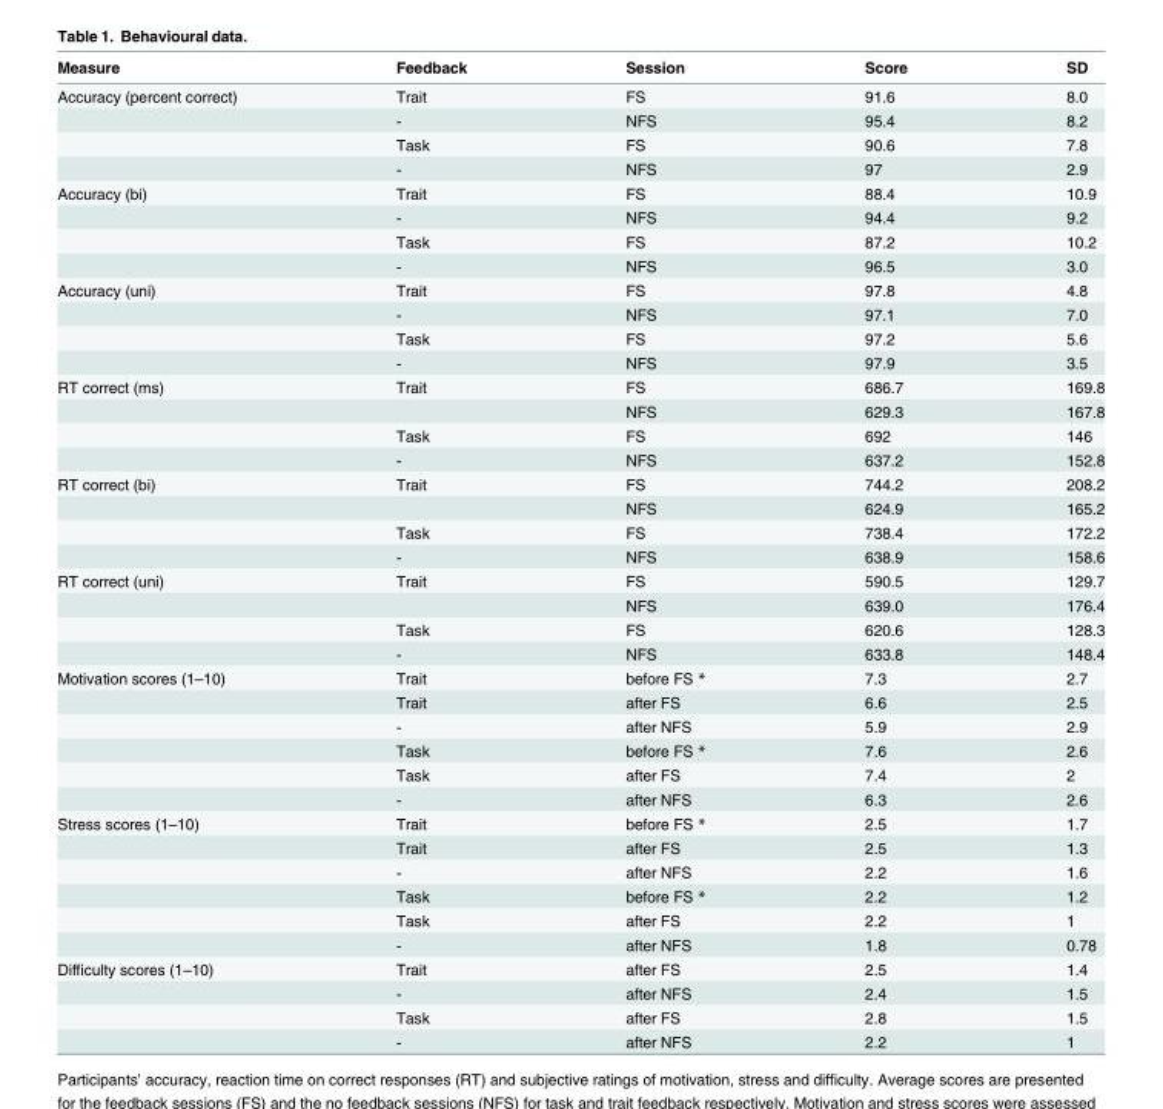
<table><thead><tr><td>Measure</td><td>Feedback</td><td>Session</td><td>Score</td><td>SD</td></tr></thead><tbody><tr><td rowspan="4">Accuracy (percent correct)</td><td>Trait</td><td>FS</td><td>91.6</td><td>8.0</td></tr><tr><td>-</td><td>NFS</td><td>95.4</td><td>8.2</td></tr><tr><td>Task</td><td>FS</td><td>90.6</td><td>7.8</td></tr><tr><td>-</td><td>NFS</td><td>97</td><td>2.9</td></tr><tr><td rowspan="4">Accuracy (bi)</td><td>Trait</td><td>FS</td><td>88.4</td><td>10.9</td></tr><tr><td>-</td><td>NFS</td><td>94.4</td><td>9.2</td></tr><tr><td>Task</td><td>FS</td><td>87.2</td><td>10.2</td></tr><tr><td>-</td><td>NFS</td><td>96.5</td><td>3.0</td></tr><tr><td rowspan="4">Accuracy (uni)</td><td>Trait</td><td>FS</td><td>97.8</td><td>4.8</td></tr><tr><td>-</td><td>NFS</td><td>97.1</td><td>7.0</td></tr><tr><td>Task</td><td>FS</td><td>97.2</td><td>5.6</td></tr><tr><td>-</td><td>NFS</td><td>97.9</td><td>3.5</td></tr><tr><td rowspan="4">RT correct (ms)</td><td>Trait</td><td>FS</td><td>686.7</td><td>169.8</td></tr><tr><td></td><td>NFS</td><td>629.3</td><td>167.8</td></tr><tr><td>Task</td><td>FS</td><td>692</td><td>146</td></tr><tr><td>-</td><td>NFS</td><td>637.2</td><td>152.8</td></tr><tr><td rowspan="4">RT correct (bi)</td><td>Trait</td><td>FS</td><td>744.2</td><td>208.2</td></tr><tr><td></td><td>NFS</td><td>624.9</td><td>165.2</td></tr><tr><td>Task</td><td>FS</td><td>738.4</td><td>172.2</td></tr><tr><td>-</td><td>NFS</td><td>638.9</td><td>158.6</td></tr><tr><td rowspan="4">RT correct (uni)</td><td>Trait</td><td>FS</td><td>590.5</td><td>129.7</td></tr><tr><td></td><td>NFS</td><td>639.0</td><td>176.4</td></tr><tr><td>Task</td><td>FS</td><td>620.6</td><td>128.3</td></tr><tr><td>-</td><td>NFS</td><td>633.8</td><td>148.4</td></tr><tr><td rowspan="6">Motivation scores (1–10)</td><td>Trait</td><td>before FS *</td><td>7.3</td><td>2.7</td></tr><tr><td>Trait</td><td>after FS</td><td>6.6</td><td>2.5</td></tr><tr><td>-</td><td>after NFS</td><td>5.9</td><td>2.9</td></tr><tr><td>Task</td><td>before FS *</td><td>7.6</td><td>2.6</td></tr><tr><td>Task</td><td>after FS</td><td>7.4</td><td>2</td></tr><tr><td>-</td><td>after NFS</td><td>6.3</td><td>2.6</td></tr><tr><td rowspan="6">Stress scores (1–10)</td><td>Trait</td><td>before FS *</td><td>2.5</td><td>1.7</td></tr><tr><td>Trait</td><td>after FS</td><td>2.5</td><td>1.3</td></tr><tr><td>-</td><td>after NFS</td><td>2.2</td><td>1.6</td></tr><tr><td>Task</td><td>before FS *</td><td>2.2</td><td>1.2</td></tr><tr><td>Task</td><td>after FS</td><td>2.2</td><td>1</td></tr><tr><td>-</td><td>after NFS</td><td>1.8</td><td>0.78</td></tr><tr><td rowspan="4">Difficulty scores (1–10)</td><td>Trait</td><td>after FS</td><td>2.5</td><td>1.4</td></tr><tr><td>-</td><td>after NFS</td><td>2.4</td><td>1.5</td></tr><tr><td>Task</td><td>after FS</td><td>2.8</td><td>1.5</td></tr><tr><td>-</td><td>after NFS</td><td>2.2</td><td>1</td></tr></tbody></table>